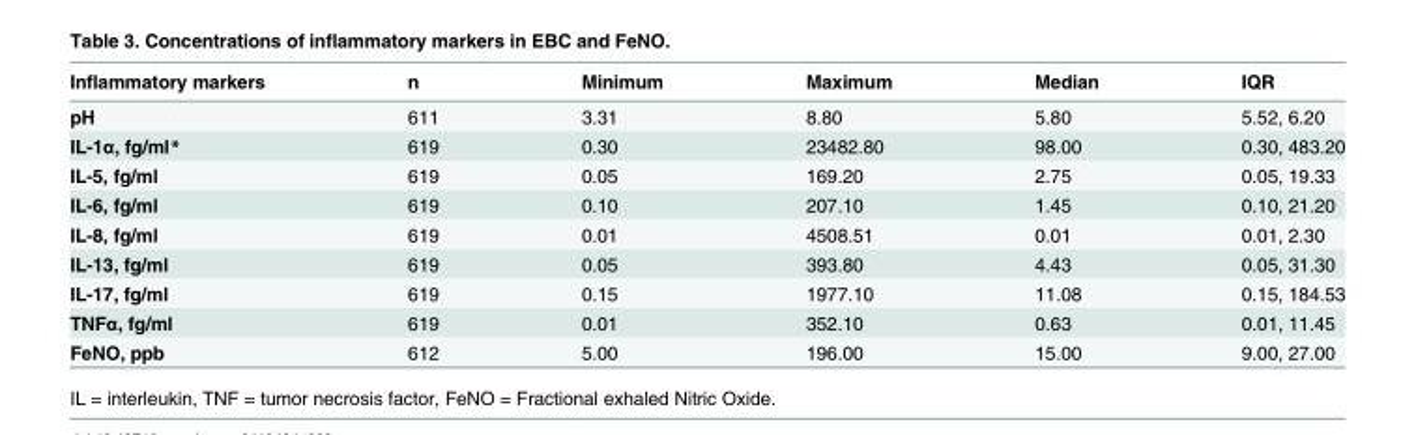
<table><thead><tr><td>Inflammatory markers</td><td>n</td><td>Minimum</td><td>Maximum</td><td>Median</td><td>IQR</td></tr></thead><tbody><tr><td>pH</td><td>611</td><td>3.31</td><td>8.80</td><td>5.80</td><td>5.52, 6.20</td></tr><tr><td>IL-1α, fg/ml*</td><td>619</td><td>0.30</td><td>23482.80</td><td>98.00</td><td>0.30, 483.20</td></tr><tr><td>IL-5, fg/ml</td><td>619</td><td>0.05</td><td>169.20</td><td>2.75</td><td>0.05, 19.33</td></tr><tr><td>IL-6, fg/ml</td><td>619</td><td>0.10</td><td>207.10</td><td>1.45</td><td>0.10, 21.20</td></tr><tr><td>IL-8, fg/ml</td><td>619</td><td>0.01</td><td>4508.51</td><td>0.01</td><td>0.01, 2.30</td></tr><tr><td>IL-13, fg/ml</td><td>619</td><td>0.05</td><td>393.80</td><td>4.43</td><td>0.05, 31.30</td></tr><tr><td>IL-17, fg/ml</td><td>619</td><td>0.15</td><td>1977.10</td><td>11.08</td><td>0.15, 184.53</td></tr><tr><td>TNFα, fg/ml</td><td>619</td><td>0.01</td><td>352.10</td><td>0.63</td><td>0.01, 11.45</td></tr><tr><td>FeNO, ppb</td><td>612</td><td>5.00</td><td>196.00</td><td>15.00</td><td>9.00, 27.00</td></tr></tbody></table>